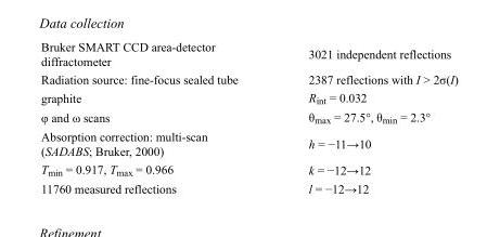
<table><tbody><tr><td>Bruker SMART CCD area-detector diffractometer</td><td>3021 independent reflections</td></tr><tr><td>Radiation source: fine-focus sealed tube</td><td>2387 reflections with I &gt; 2σ(I)</td></tr><tr><td>graphite</td><td>R<sub>int</sub> = 0.032</td></tr><tr><td>φ and ω scans</td><td>θ<sub>max</sub> = 27.5°, θ<sub>min</sub> = 2.3°</td></tr><tr><td>Absorption correction: multi-scan (SADABS; Bruker, 2000)</td><td>h = −11→10</td></tr><tr><td>T<sub>min</sub> = 0.917, T<sub>max</sub> = 0.966</td><td>k = −12→12</td></tr><tr><td>11760 measured reflections</td><td>l = −12→12</td></tr></tbody></table>